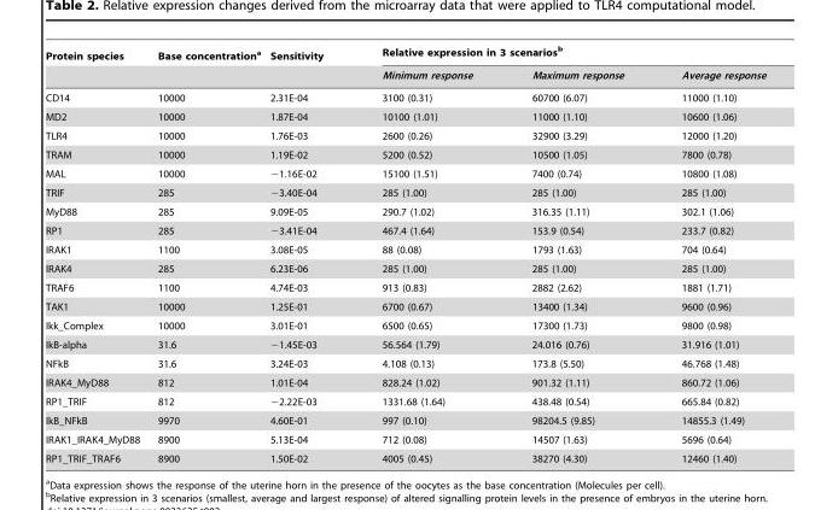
<table><thead><tr><td rowspan="2">Protein species</td><td rowspan="2">Base concentration<sup>a</sup></td><td rowspan="2">Sensitivity</td><td colspan="3">Relative expression in 3 scenarios<sup>b</sup></td></tr><tr><td>Minimum response</td><td>Maximum response</td><td>Average response</td></tr></thead><tbody><tr><td>CD14</td><td>10000</td><td>2.31E-04</td><td>3100 (0.31)</td><td>60700 (6.07)</td><td>11000 (1.10)</td></tr><tr><td>MD2</td><td>10000</td><td>1.87E-04</td><td>10100 (1.01)</td><td>11000 (1.10)</td><td>10600 (1.06)</td></tr><tr><td>TLR4</td><td>10000</td><td>1.76E-03</td><td>2600 (0.26)</td><td>32900 (3.29)</td><td>12000 (1.20)</td></tr><tr><td>TRAM</td><td>10000</td><td>1.19E-02</td><td>5200 (0.52)</td><td>10500 (1.05)</td><td>7800 (0.78)</td></tr><tr><td>MAL</td><td>10000</td><td>−1.16E-02</td><td>15100 (1.51)</td><td>7400 (0.74)</td><td>10800 (1.08)</td></tr><tr><td>TRIF</td><td>285</td><td>−3.40E-04</td><td>285 (1.00)</td><td>285 (1.00)</td><td>285 (1.00)</td></tr><tr><td>MyD88</td><td>285</td><td>9.09E-05</td><td>290.7 (1.02)</td><td>316.35 (1.11)</td><td>302.1 (1.06)</td></tr><tr><td>RP1</td><td>285</td><td>−3.41E-04</td><td>467.4 (1.64)</td><td>153.9 (0.54)</td><td>233.7 (0.82)</td></tr><tr><td>IRAK1</td><td>1100</td><td>3.08E-05</td><td>88 (0.08)</td><td>1793 (1.63)</td><td>704 (0.64)</td></tr><tr><td>IRAK4</td><td>285</td><td>6.23E-06</td><td>285 (1.00)</td><td>285 (1.00)</td><td>285 (1.00)</td></tr><tr><td>TRAF6</td><td>1100</td><td>4.74E-03</td><td>913 (0.83)</td><td>2882 (2.62)</td><td>1881 (1.71)</td></tr><tr><td>TAK1</td><td>10000</td><td>1.25E-01</td><td>6700 (0.67)</td><td>13400 (1.34)</td><td>9600 (0.96)</td></tr><tr><td>Ikk_Complex</td><td>10000</td><td>3.01E-01</td><td>6500 (0.65)</td><td>17300 (1.73)</td><td>9800 (0.98)</td></tr><tr><td>IkB-alpha</td><td>31.6</td><td>−1.45E-03</td><td>56.564 (1.79)</td><td>24.016 (0.76)</td><td>31.916 (1.01)</td></tr><tr><td>NFkB</td><td>31.6</td><td>3.24E-03</td><td>4.108 (0.13)</td><td>173.8 (5.50)</td><td>46.768 (1.48)</td></tr><tr><td>IRAK4_MyD88</td><td>812</td><td>1.01E-04</td><td>828.24 (1.02)</td><td>901.32 (1.11)</td><td>860.72 (1.06)</td></tr><tr><td>RP1_TRIF</td><td>812</td><td>−2.22E-03</td><td>1331.68 (1.64)</td><td>438.48 (0.54)</td><td>665.84 (0.82)</td></tr><tr><td>IkB_NFkB</td><td>9970</td><td>4.60E-01</td><td>997 (0.10)</td><td>98204.5 (9.85)</td><td>14855.3 (1.49)</td></tr><tr><td>IRAK1_IRAK4_MyD88</td><td>8900</td><td>5.13E-04</td><td>712 (0.08)</td><td>14507 (1.63)</td><td>5696 (0.64)</td></tr><tr><td>RP1_TRIF_TRAF6</td><td>8900</td><td>1.50E-02</td><td>4005 (0.45)</td><td>38270 (4.30)</td><td>12460 (1.40)</td></tr></tbody></table>